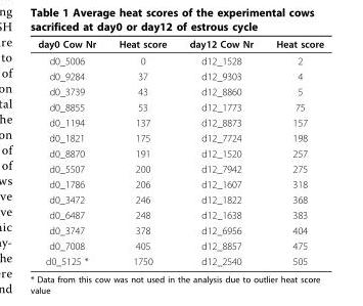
<table><thead><tr><td>day0 Cow Nr</td><td>Heat score</td><td>day12 Cow Nr</td><td>Heat score</td></tr></thead><tbody><tr><td>d0_5006</td><td>0</td><td>d12_1528</td><td>2</td></tr><tr><td>d0_9284</td><td>37</td><td>d12_9303</td><td>4</td></tr><tr><td>d0_3739</td><td>43</td><td>d12_8860</td><td>5</td></tr><tr><td>d0_8855</td><td>53</td><td>d12_1773</td><td>75</td></tr><tr><td>d0_1194</td><td>137</td><td>d12_8873</td><td>157</td></tr><tr><td>d0_1821</td><td>175</td><td>d12_7724</td><td>198</td></tr><tr><td>d0_8870</td><td>191</td><td>d12_1520</td><td>257</td></tr><tr><td>d0_5507</td><td>200</td><td>d12_7942</td><td>275</td></tr><tr><td>d0_1786</td><td>206</td><td>d12_1607</td><td>318</td></tr><tr><td>d0_3472</td><td>246</td><td>d12_1822</td><td>368</td></tr><tr><td>d0_6487</td><td>248</td><td>d12_1638</td><td>383</td></tr><tr><td>d0_3747</td><td>378</td><td>d12_6956</td><td>404</td></tr><tr><td>d0_7008</td><td>405</td><td>d12_8857</td><td>475</td></tr><tr><td>d0_5125 *</td><td>1750</td><td>d12_2540</td><td>505</td></tr></tbody></table>